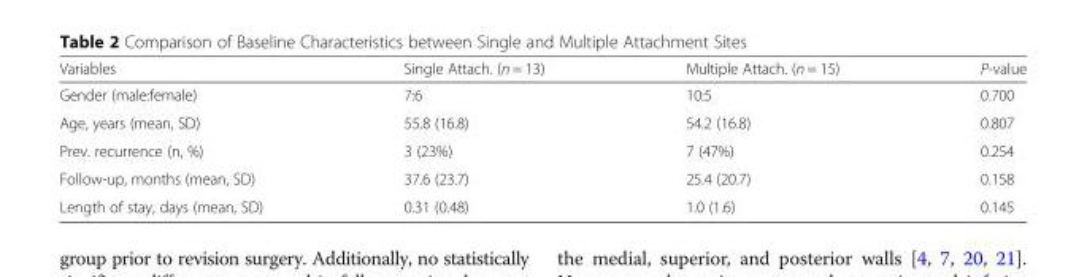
<table><thead><tr><td>Variables</td><td>Single Attach. (n = 13)</td><td>Multiple Attach. (n = 15)</td><td>P-value</td></tr></thead><tbody><tr><td>Gender (male:female)</td><td>7:6</td><td>10:5</td><td>0.700</td></tr><tr><td>Age, years (mean, SD)</td><td>55.8 (16.8)</td><td>54.2 (16.8)</td><td>0.807</td></tr><tr><td>Prev. recurrence (n, %)</td><td>3 (23%)</td><td>7 (47%)</td><td>0.254</td></tr><tr><td>Follow-up, months (mean, SD)</td><td>37.6 (23.7)</td><td>25.4 (20.7)</td><td>0.158</td></tr><tr><td>Length of stay, days (mean, SD)</td><td>0.31 (0.48)</td><td>1.0 (1.6)</td><td>0.145</td></tr></tbody></table>